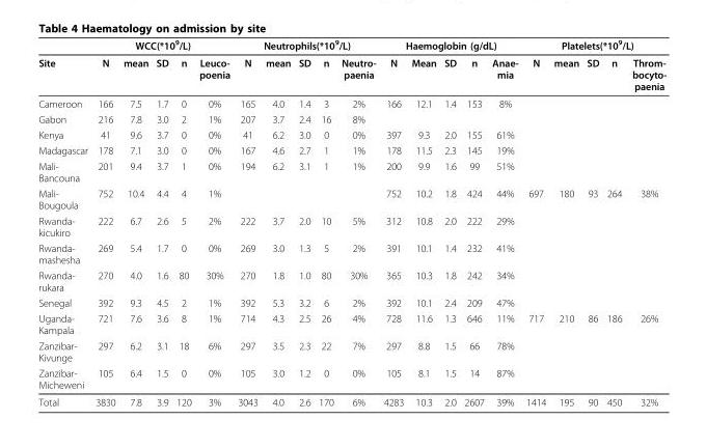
<table><thead><tr><td rowspan="2">Site</td><td colspan="5">WCC(*10<sup>9</sup>/L)</td><td colspan="5">Neutrophils(*10<sup>9</sup>/L)</td><td colspan="5">Haemoglobin (g/dL)</td><td colspan="5">Platelets(*10<sup>9</sup>/L)</td></tr><tr><td>N</td><td>mean</td><td>SD</td><td>n</td><td>Leuco- poenia</td><td>N</td><td>mean</td><td>SD</td><td>n</td><td>Neutro- paenia</td><td>N</td><td>Mean</td><td>SD</td><td>n</td><td>Anae- mia</td><td>N</td><td>mean</td><td>SD</td><td>n</td><td>Throm- bocyto- paenia</td></tr></thead><tbody><tr><td>Cameroon</td><td>166</td><td>7.5</td><td>1.7</td><td>0</td><td>0%</td><td>165</td><td>4.0</td><td>1.4</td><td>3</td><td>2%</td><td>166</td><td>12.1</td><td>1.4</td><td>153</td><td>8%</td><td></td><td></td><td></td><td></td><td></td></tr><tr><td>Gabon</td><td>216</td><td>7.8</td><td>3.0</td><td>2</td><td>1%</td><td>207</td><td>3.7</td><td>2.4</td><td>16</td><td>8%</td><td></td><td></td><td></td><td></td><td></td><td></td><td></td><td></td><td></td><td></td></tr><tr><td>Kenya</td><td>41</td><td>9.6</td><td>3.7</td><td>0</td><td>0%</td><td>41</td><td>6.2</td><td>3.0</td><td>0</td><td>0%</td><td>397</td><td>9.3</td><td>2.0</td><td>155</td><td>61%</td><td></td><td></td><td></td><td></td><td></td></tr><tr><td>Madagascar</td><td>178</td><td>7.1</td><td>3.0</td><td>0</td><td>0%</td><td>167</td><td>4.6</td><td>2.7</td><td>1</td><td>1%</td><td>178</td><td>11.5</td><td>2.3</td><td>145</td><td>19%</td><td></td><td></td><td></td><td></td><td></td></tr><tr><td>Mali- Bancouna</td><td>201</td><td>9.4</td><td>3.7</td><td>1</td><td>0%</td><td>194</td><td>6.2</td><td>3.1</td><td>1</td><td>1%</td><td>200</td><td>9.9</td><td>1.6</td><td>99</td><td>51%</td><td></td><td></td><td></td><td></td><td></td></tr><tr><td>Mali- Bougoula</td><td>752</td><td>10.4</td><td>4.4</td><td>4</td><td>1%</td><td></td><td></td><td></td><td></td><td></td><td>752</td><td>10.2</td><td>1.8</td><td>424</td><td>44%</td><td>697</td><td>180</td><td>93</td><td>264</td><td>38%</td></tr><tr><td>Rwanda- kicukiro</td><td>222</td><td>6.7</td><td>2.6</td><td>5</td><td>2%</td><td>222</td><td>3.7</td><td>2.0</td><td>10</td><td>5%</td><td>312</td><td>10.8</td><td>2.0</td><td>222</td><td>29%</td><td></td><td></td><td></td><td></td><td></td></tr><tr><td>Rwanda- mashesha</td><td>269</td><td>5.4</td><td>1.7</td><td>0</td><td>0%</td><td>269</td><td>3.0</td><td>1.3</td><td>5</td><td>2%</td><td>391</td><td>10.1</td><td>1.4</td><td>232</td><td>41%</td><td></td><td></td><td></td><td></td><td></td></tr><tr><td>Rwanda- rukara</td><td>270</td><td>4.0</td><td>1.6</td><td>80</td><td>30%</td><td>270</td><td>1.8</td><td>1.0</td><td>80</td><td>30%</td><td>365</td><td>10.3</td><td>1.8</td><td>242</td><td>34%</td><td></td><td></td><td></td><td></td><td></td></tr><tr><td>Senegal</td><td>392</td><td>9.3</td><td>4.5</td><td>2</td><td>1%</td><td>392</td><td>5.3</td><td>3.2</td><td>6</td><td>2%</td><td>392</td><td>10.1</td><td>2.4</td><td>209</td><td>47%</td><td></td><td></td><td></td><td></td><td></td></tr><tr><td>Uganda- Kampala</td><td>721</td><td>7.6</td><td>3.6</td><td>8</td><td>1%</td><td>714</td><td>4.3</td><td>2.5</td><td>26</td><td>4%</td><td>728</td><td>11.6</td><td>1.3</td><td>646</td><td>11%</td><td>717</td><td>210</td><td>86</td><td>186</td><td>26%</td></tr><tr><td>Zanzibar- Kivunge</td><td>297</td><td>6.2</td><td>3.1</td><td>18</td><td>6%</td><td>297</td><td>3.5</td><td>2.3</td><td>22</td><td>7%</td><td>297</td><td>8.8</td><td>1.5</td><td>66</td><td>78%</td><td></td><td></td><td></td><td></td><td></td></tr><tr><td>Zanzibar- Micheweni</td><td>105</td><td>6.4</td><td>1.5</td><td>0</td><td>0%</td><td>105</td><td>3.0</td><td>1.2</td><td>0</td><td>0%</td><td>105</td><td>8.1</td><td>1.5</td><td>14</td><td>87%</td><td></td><td></td><td></td><td></td><td></td></tr><tr><td>Total</td><td>3830</td><td>7.8</td><td>3.9</td><td>120</td><td>3%</td><td>3043</td><td>4.0</td><td>2.6</td><td>170</td><td>6%</td><td>4283</td><td>10.3</td><td>2.0</td><td>2607</td><td>39%</td><td>1414</td><td>195</td><td>90</td><td>450</td><td>32%</td></tr></tbody></table>